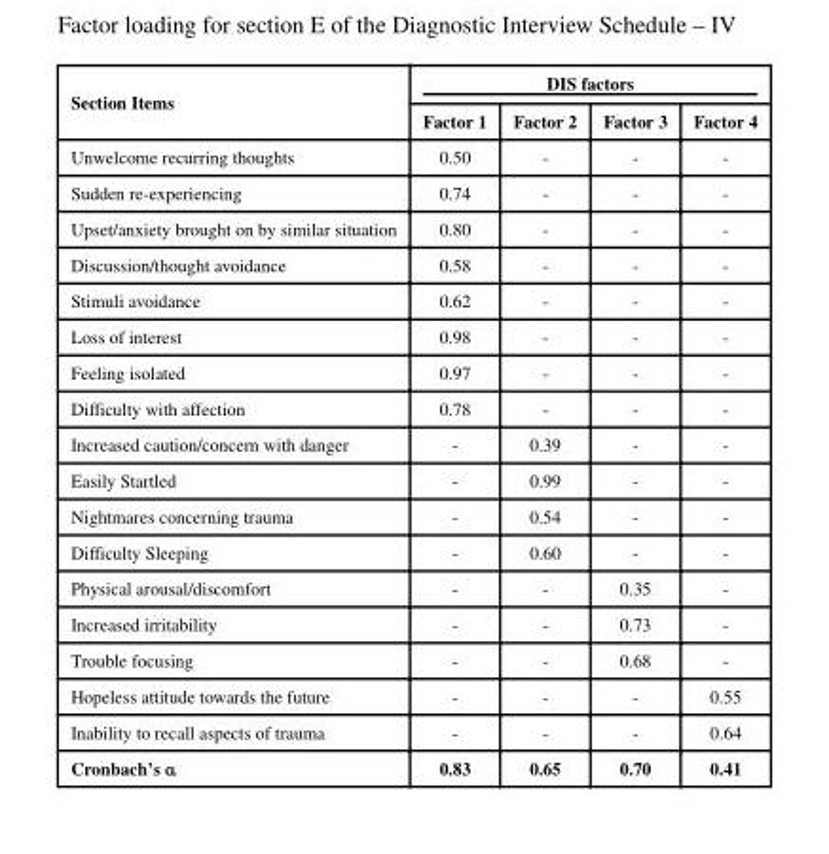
<table><thead><tr><td rowspan="2">Section Items</td><td colspan="4">DIS factors</td></tr><tr><td>Factor 1</td><td>Factor 2</td><td>Factor 3</td><td>Factor 4</td></tr></thead><tbody><tr><td>Unwelcome recurring thoughts</td><td>0.50</td><td>-</td><td>-</td><td>-</td></tr><tr><td>Sudden re-experiencing</td><td>0.74</td><td>-</td><td>-</td><td>-</td></tr><tr><td>Upset/anxiety brought on by similar situation</td><td>0.80</td><td>-</td><td>-</td><td>-</td></tr><tr><td>Discussion/thought avoidance</td><td>0.58</td><td>-</td><td>-</td><td>-</td></tr><tr><td>Stimuli avoidance</td><td>0.62</td><td>-</td><td>-</td><td>-</td></tr><tr><td>Loss of interest</td><td>0.98</td><td>-</td><td>-</td><td>-</td></tr><tr><td>Feeling isolated</td><td>0.97</td><td>-</td><td>-</td><td>-</td></tr><tr><td>Difficulty with affection</td><td>0.78</td><td>-</td><td>-</td><td>-</td></tr><tr><td>Increased caution/concern with danger</td><td>-</td><td>0.39</td><td>-</td><td>-</td></tr><tr><td>Easily Startled</td><td>-</td><td>0.99</td><td>-</td><td>-</td></tr><tr><td>Nightmares concerning trauma</td><td>-</td><td>0.54</td><td>-</td><td>-</td></tr><tr><td>Difficulty Sleeping</td><td>-</td><td>0.60</td><td>-</td><td>-</td></tr><tr><td>Physical arousal/discomfort</td><td>-</td><td>-</td><td>0.35</td><td>-</td></tr><tr><td>Increased irritability</td><td>-</td><td>-</td><td>0.73</td><td>-</td></tr><tr><td>Trouble focusing</td><td>-</td><td>-</td><td>0.68</td><td>-</td></tr><tr><td>Hopeless attitude towards the future</td><td>-</td><td>-</td><td>-</td><td>0.55</td></tr><tr><td>Inability to recall aspects of trauma</td><td>-</td><td>-</td><td>-</td><td>0.64</td></tr><tr><td>Cronbach’s α</td><td>0.83</td><td>0.65</td><td>0.70</td><td>0.41</td></tr></tbody></table>